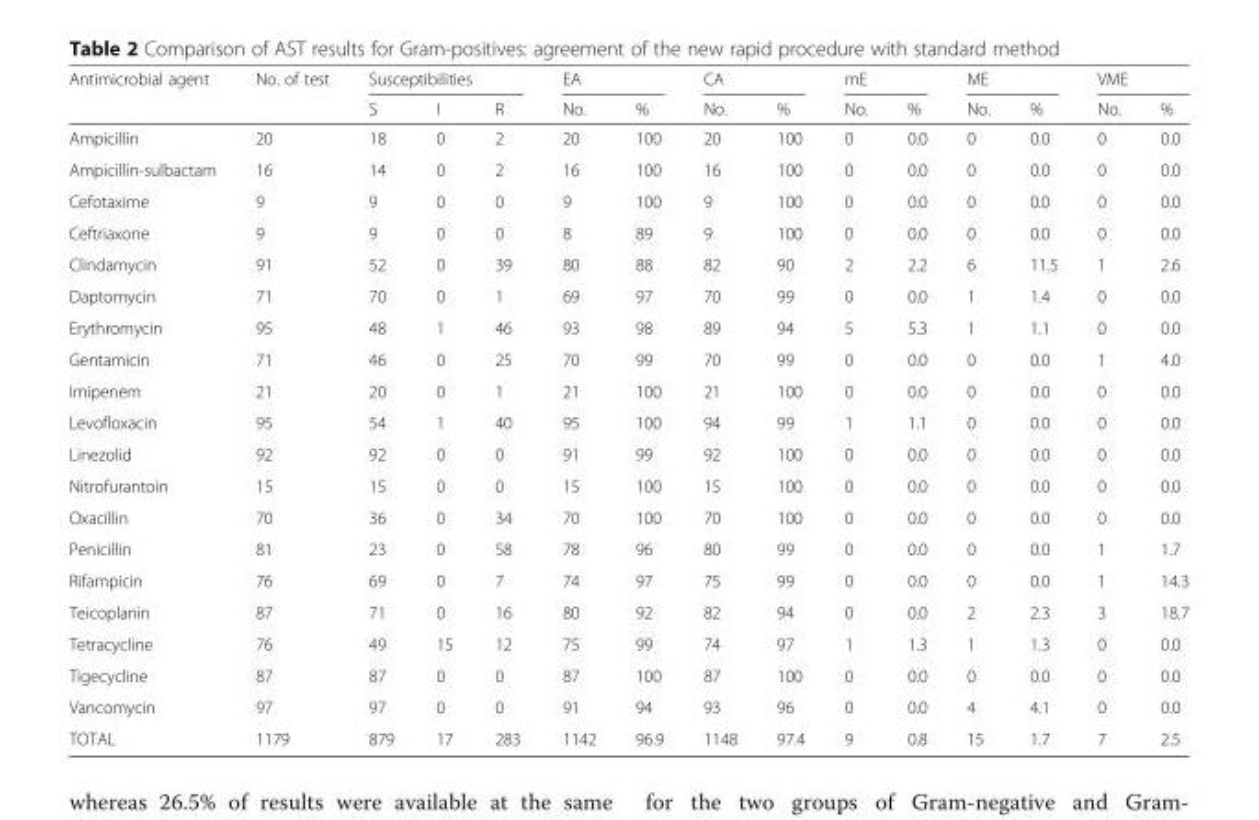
<table><thead><tr><td rowspan="2">Antimicrobial agent</td><td rowspan="2">No. of test</td><td colspan="3">Susceptibilities</td><td colspan="2">EA</td><td colspan="2">CA</td><td colspan="2">mE</td><td colspan="2">ME</td><td colspan="2">VME</td></tr><tr><td>S</td><td>I</td><td>R</td><td>No.</td><td>%</td><td>No.</td><td>%</td><td>No.</td><td>%</td><td>No.</td><td>%</td><td>No.</td><td>%</td></tr></thead><tbody><tr><td>Ampicillin</td><td>20</td><td>18</td><td>0</td><td>2</td><td>20</td><td>100</td><td>20</td><td>100</td><td>0</td><td>0.0</td><td>0</td><td>0.0</td><td>0</td><td>0.0</td></tr><tr><td>Ampicillin-sulbactam</td><td>16</td><td>14</td><td>0</td><td>2</td><td>16</td><td>100</td><td>16</td><td>100</td><td>0</td><td>0.0</td><td>0</td><td>0.0</td><td>0</td><td>0.0</td></tr><tr><td>Cefotaxime</td><td>9</td><td>9</td><td>0</td><td>0</td><td>9</td><td>100</td><td>9</td><td>100</td><td>0</td><td>0.0</td><td>0</td><td>0.0</td><td>0</td><td>0.0</td></tr><tr><td>Ceftriaxone</td><td>9</td><td>9</td><td>0</td><td>0</td><td>8</td><td>89</td><td>9</td><td>100</td><td>0</td><td>0.0</td><td>0</td><td>0.0</td><td>0</td><td>0.0</td></tr><tr><td>Clindamycin</td><td>91</td><td>52</td><td>0</td><td>39</td><td>80</td><td>88</td><td>82</td><td>90</td><td>2</td><td>2.2</td><td>6</td><td>11.5</td><td>1</td><td>2.6</td></tr><tr><td>Daptomycin</td><td>71</td><td>70</td><td>0</td><td>1</td><td>69</td><td>97</td><td>70</td><td>99</td><td>0</td><td>0.0</td><td>1</td><td>1.4</td><td>0</td><td>0.0</td></tr><tr><td>Erythromycin</td><td>95</td><td>48</td><td>1</td><td>46</td><td>93</td><td>98</td><td>89</td><td>94</td><td>5</td><td>5.3</td><td>1</td><td>1.1</td><td>0</td><td>0.0</td></tr><tr><td>Gentamicin</td><td>71</td><td>46</td><td>0</td><td>25</td><td>70</td><td>99</td><td>70</td><td>99</td><td>0</td><td>0.0</td><td>0</td><td>0.0</td><td>1</td><td>4.0</td></tr><tr><td>Imipenem</td><td>21</td><td>20</td><td>0</td><td>1</td><td>21</td><td>100</td><td>21</td><td>100</td><td>0</td><td>0.0</td><td>0</td><td>0.0</td><td>0</td><td>0.0</td></tr><tr><td>Levofloxacin</td><td>95</td><td>54</td><td>1</td><td>40</td><td>95</td><td>100</td><td>94</td><td>99</td><td>1</td><td>1.1</td><td>0</td><td>0.0</td><td>0</td><td>0.0</td></tr><tr><td>Linezolid</td><td>92</td><td>92</td><td>0</td><td>0</td><td>91</td><td>99</td><td>92</td><td>100</td><td>0</td><td>0.0</td><td>0</td><td>0.0</td><td>0</td><td>0.0</td></tr><tr><td>Nitrofurantoin</td><td>15</td><td>15</td><td>0</td><td>0</td><td>15</td><td>100</td><td>15</td><td>100</td><td>0</td><td>0.0</td><td>0</td><td>0.0</td><td>0</td><td>0.0</td></tr><tr><td>Oxacillin</td><td>70</td><td>36</td><td>0</td><td>34</td><td>70</td><td>100</td><td>70</td><td>100</td><td>0</td><td>0.0</td><td>0</td><td>0.0</td><td>0</td><td>0.0</td></tr><tr><td>Penicillin</td><td>81</td><td>23</td><td>0</td><td>58</td><td>78</td><td>96</td><td>80</td><td>99</td><td>0</td><td>0.0</td><td>0</td><td>0.0</td><td>1</td><td>1.7</td></tr><tr><td>Rifampicin</td><td>76</td><td>69</td><td>0</td><td>7</td><td>74</td><td>97</td><td>75</td><td>99</td><td>0</td><td>0.0</td><td>0</td><td>0.0</td><td>1</td><td>14.3</td></tr><tr><td>Teicoplanin</td><td>87</td><td>71</td><td>0</td><td>16</td><td>80</td><td>92</td><td>82</td><td>94</td><td>0</td><td>0.0</td><td>2</td><td>2.3</td><td>3</td><td>18.7</td></tr><tr><td>Tetracycline</td><td>76</td><td>49</td><td>15</td><td>12</td><td>75</td><td>99</td><td>74</td><td>97</td><td>1</td><td>1.3</td><td>1</td><td>1.3</td><td>0</td><td>0.0</td></tr><tr><td>Tigecycline</td><td>87</td><td>87</td><td>0</td><td>0</td><td>87</td><td>100</td><td>87</td><td>100</td><td>0</td><td>0.0</td><td>0</td><td>0.0</td><td>0</td><td>0.0</td></tr><tr><td>Vancomycin</td><td>97</td><td>97</td><td>0</td><td>0</td><td>91</td><td>94</td><td>93</td><td>96</td><td>0</td><td>0.0</td><td>4</td><td>4.1</td><td>0</td><td>0.0</td></tr><tr><td>TOTAL</td><td>1179</td><td>879</td><td>17</td><td>283</td><td>1142</td><td>96.9</td><td>1148</td><td>97.4</td><td>9</td><td>0.8</td><td>15</td><td>1.7</td><td>7</td><td>2.5</td></tr></tbody></table>